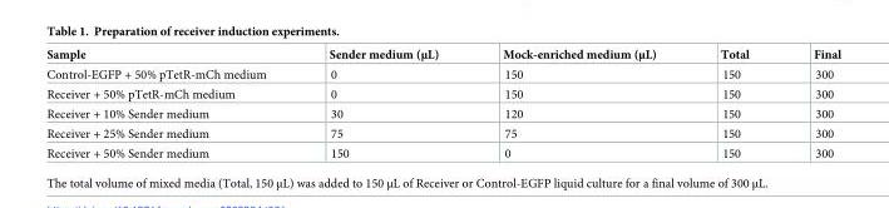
<table><thead><tr><td>Sample</td><td>Sender medium (μL)</td><td>Mock-enriched medium (μL)</td><td>Total</td><td>Final</td></tr></thead><tbody><tr><td>Control-EGFP + 50% pTetR-mCh medium</td><td>0</td><td>150</td><td>150</td><td>300</td></tr><tr><td>Receiver + 50% pTetR-mCh medium</td><td>0</td><td>150</td><td>150</td><td>300</td></tr><tr><td>Receiver + 10% Sender medium</td><td>30</td><td>120</td><td>150</td><td>300</td></tr><tr><td>Receiver + 25% Sender medium</td><td>75</td><td>75</td><td>150</td><td>300</td></tr><tr><td>Receiver + 50% Sender medium</td><td>150</td><td>0</td><td>150</td><td>300</td></tr></tbody></table>